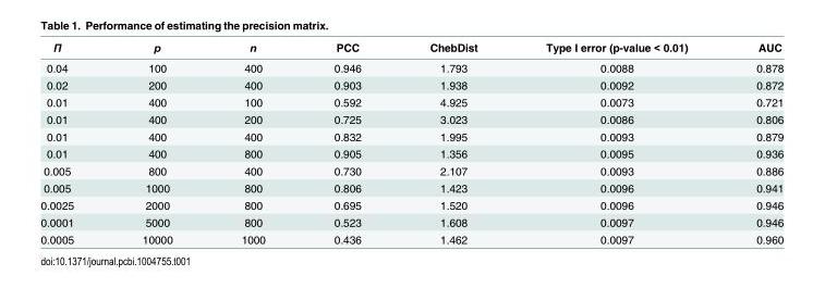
<table><thead><tr><td>Π</td><td>p</td><td>n</td><td>PCC</td><td>ChebDist</td><td>Type I error (p-value &lt; 0.01)</td><td>AUC</td></tr></thead><tbody><tr><td>0.04</td><td>100</td><td>400</td><td>0.946</td><td>1.793</td><td>0.0088</td><td>0.878</td></tr><tr><td>0.02</td><td>200</td><td>400</td><td>0.903</td><td>1.938</td><td>0.0092</td><td>0.872</td></tr><tr><td>0.01</td><td>400</td><td>100</td><td>0.592</td><td>4.925</td><td>0.0073</td><td>0.721</td></tr><tr><td>0.01</td><td>400</td><td>200</td><td>0.725</td><td>3.023</td><td>0.0086</td><td>0.806</td></tr><tr><td>0.01</td><td>400</td><td>400</td><td>0.832</td><td>1.995</td><td>0.0093</td><td>0.879</td></tr><tr><td>0.01</td><td>400</td><td>800</td><td>0.905</td><td>1.356</td><td>0.0095</td><td>0.936</td></tr><tr><td>0.005</td><td>800</td><td>400</td><td>0.730</td><td>2.107</td><td>0.0093</td><td>0.886</td></tr><tr><td>0.005</td><td>1000</td><td>800</td><td>0.806</td><td>1.423</td><td>0.0096</td><td>0.941</td></tr><tr><td>0.0025</td><td>2000</td><td>800</td><td>0.695</td><td>1.520</td><td>0.0096</td><td>0.946</td></tr><tr><td>0.0001</td><td>5000</td><td>800</td><td>0.523</td><td>1.608</td><td>0.0097</td><td>0.946</td></tr><tr><td>0.0005</td><td>10000</td><td>1000</td><td>0.436</td><td>1.462</td><td>0.0097</td><td>0.960</td></tr></tbody></table>